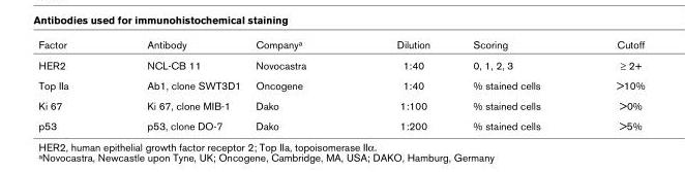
<table><thead><tr><td>Factor</td><td>Antibody</td><td>Companya</td><td>Dilution</td><td>Scoring</td><td>Cutoff</td></tr></thead><tbody><tr><td>HER2</td><td>NCL-CB 11</td><td>Novocastra</td><td>1:40</td><td>0, 1, 2, 3</td><td>≥ 2+</td></tr><tr><td>Top IIa</td><td>Ab1, clone SWT3D1</td><td>Oncogene</td><td>1:40</td><td>% stained cells</td><td>&gt;10%</td></tr><tr><td>Ki 67</td><td>Ki 67, clone MIB-1</td><td>Dako</td><td>1:100</td><td>% stained cells</td><td>&gt;0%</td></tr><tr><td>p53</td><td>p53, clone DO-7</td><td>Dako</td><td>1:200</td><td>% stained cells</td><td>&gt;5%</td></tr></tbody></table>